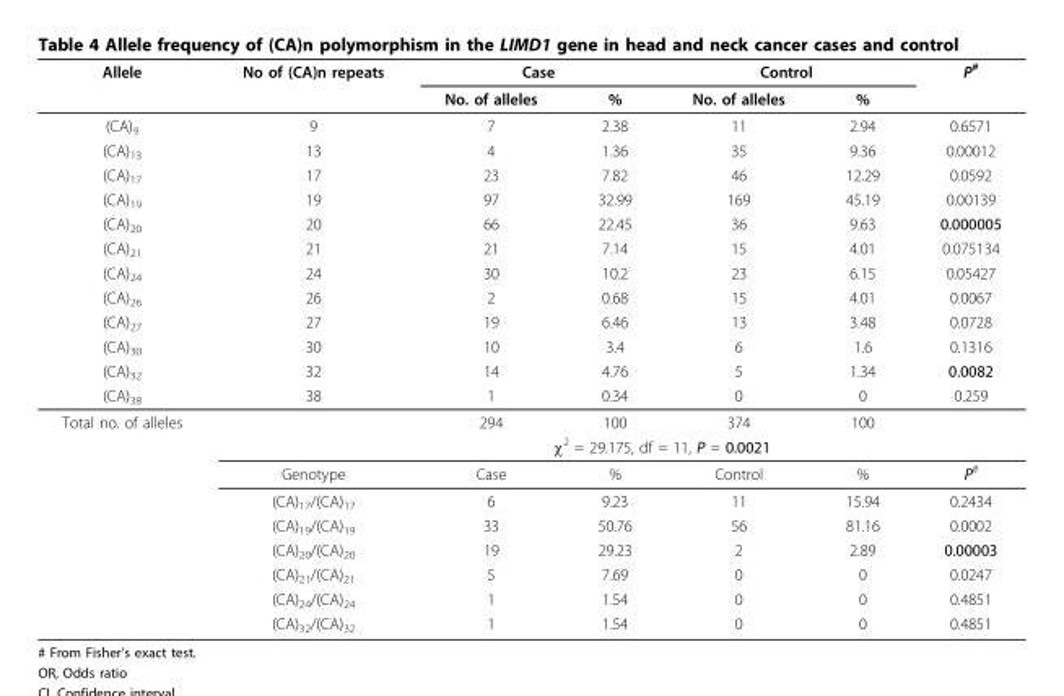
<table><thead><tr><td rowspan="2">Allele</td><td rowspan="2">No of (CA)n repeats</td><td colspan="2">Case</td><td colspan="2">Control</td><td rowspan="2">P<sup>#</sup></td></tr><tr><td>No. of alleles</td><td>%</td><td>No. of alleles</td><td>%</td></tr></thead><tbody><tr><td>(CA)<sub>9</sub></td><td>9</td><td>7</td><td>2.38</td><td>11</td><td>2.94</td><td>0.6571</td></tr><tr><td>(CA)<sub>13</sub></td><td>13</td><td>4</td><td>1.36</td><td>35</td><td>9.36</td><td>0.00012</td></tr><tr><td>(CA)<sub>17</sub></td><td>17</td><td>23</td><td>7.82</td><td>46</td><td>12.29</td><td>0.0592</td></tr><tr><td>(CA)<sub>19</sub></td><td>19</td><td>97</td><td>32.99</td><td>169</td><td>45.19</td><td>0.00139</td></tr><tr><td>(CA)<sub>20</sub></td><td>20</td><td>66</td><td>22.45</td><td>36</td><td>9.63</td><td>0.000005</td></tr><tr><td>(CA)<sub>21</sub></td><td>21</td><td>21</td><td>7.14</td><td>15</td><td>4.01</td><td>0.075134</td></tr><tr><td>(CA)<sub>24</sub></td><td>24</td><td>30</td><td>10.2</td><td>23</td><td>6.15</td><td>0.05427</td></tr><tr><td>(CA)<sub>26</sub></td><td>26</td><td>2</td><td>0.68</td><td>15</td><td>4.01</td><td>0.0067</td></tr><tr><td>(CA)<sub>27</sub></td><td>27</td><td>19</td><td>6.46</td><td>13</td><td>3.48</td><td>0.0728</td></tr><tr><td>(CA)<sub>30</sub></td><td>30</td><td>10</td><td>3.4</td><td>6</td><td>1.6</td><td>0.1316</td></tr><tr><td>(CA)<sub>32</sub></td><td>32</td><td>14</td><td>4.76</td><td>5</td><td>1.34</td><td>0.0082</td></tr><tr><td>(CA)<sub>38</sub></td><td>38</td><td>1</td><td>0.34</td><td>0</td><td>0</td><td>0.259</td></tr><tr><td rowspan="9">Total no. of alleles</td><td></td><td>294</td><td>100</td><td>374</td><td>100</td><td></td></tr><tr><td></td><td colspan="4">χ<sup>2</sup> = 29.175, df = 11, P = 0.0021</td><td></td></tr><tr><td>Genotype</td><td>Case</td><td>%</td><td>Control</td><td>%</td><td>P<sup>#</sup></td></tr><tr><td>(CA)<sub>17</sub>/(CA)<sub>17</sub></td><td>6</td><td>9.23</td><td>11</td><td>15.94</td><td>0.2434</td></tr><tr><td>(CA)<sub>19</sub>/(CA)<sub>19</sub></td><td>33</td><td>50.76</td><td>56</td><td>81.16</td><td>0.0002</td></tr><tr><td>(CA)<sub>20</sub>/(CA)<sub>20</sub></td><td>19</td><td>29.23</td><td>2</td><td>2.89</td><td>0.00003</td></tr><tr><td>(CA)<sub>21</sub>/(CA)<sub>21</sub></td><td>5</td><td>7.69</td><td>0</td><td>0</td><td>0.0247</td></tr><tr><td>(CA)<sub>24</sub>/(CA)<sub>24</sub></td><td>1</td><td>1.54</td><td>0</td><td>0</td><td>0.4851</td></tr><tr><td>(CA)<sub>32</sub>/(CA)<sub>32</sub></td><td>1</td><td>1.54</td><td>0</td><td>0</td><td>0.4851</td></tr></tbody></table>